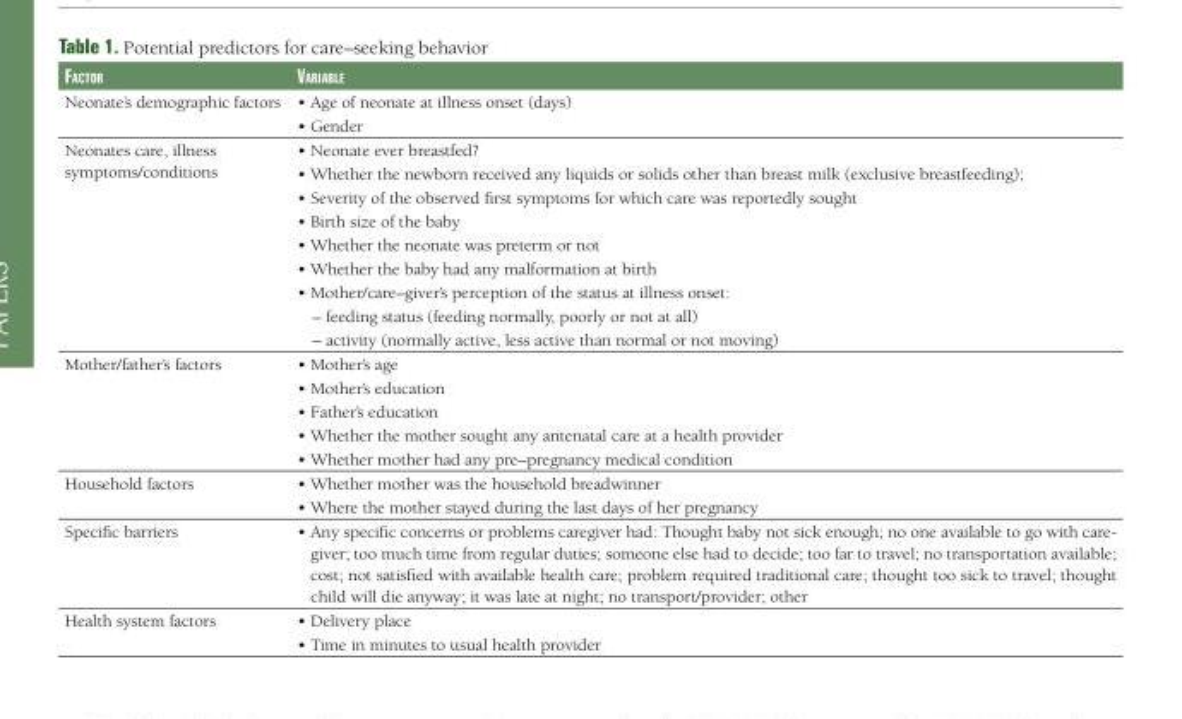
<table><thead><tr><td>Factor</td><td>Variable</td></tr></thead><tbody><tr><td>Neonate’s demographic factors</td><td>• Age of neonate at illness onset (days) • Gender</td></tr><tr><td>Neonates care, illness symptoms/conditions</td><td>• Neonate ever breastfed? • Whether the newborn received any liquids or solids other than breast milk (exclusive breastfeeding); • Severity of the observed first symptoms for which care was reportedly sought • Birth size of the baby • Whether the neonate was preterm or not • Whether the baby had any malformation at birth • Mother/care–giver’s perception of the status at illness onset: – feeding status (feeding normally, poorly or not at all) – activity (normally active, less active than normal or not moving)</td></tr><tr><td>Mother/father’s factors</td><td>• Mother’s age • Mother’s education • Father’s education • Whether the mother sought any antenatal care at a health provider • Whether mother had any pre–pregnancy medical condition</td></tr><tr><td>Household factors</td><td>• Whether mother was the household breadwinner • Where the mother stayed during the last days of her pregnancy</td></tr><tr><td>Specific barriers</td><td>• Any specific concerns or problems caregiver had: Thought baby not sick enough; no one available to go with care- giver; too much time from regular duties; someone else had to decide; too far to travel; no transportation available; cost; not satisfied with available health care; problem required traditional care; thought too sick to travel; thought child will die anyway; it was late at night; no transport/provider; other</td></tr><tr><td>Health system factors</td><td>• Delivery place • Time in minutes to usual health provider</td></tr></tbody></table>